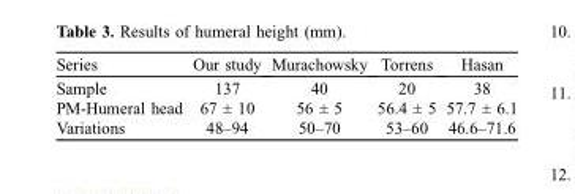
<table><thead><tr><td>Series</td><td>Our study</td><td>Murachowsky</td><td>Torrens</td><td>Hasan</td></tr></thead><tbody><tr><td>Sample</td><td>137</td><td>40</td><td>20</td><td>38</td></tr><tr><td>PM-Humeral head</td><td>67 ± 10</td><td>56 ± 5</td><td>56.4 ± 5</td><td>57.7 ± 6.1</td></tr><tr><td>Variations</td><td>48–94</td><td>50–70</td><td>53–60</td><td>46.6–71.6</td></tr></tbody></table>